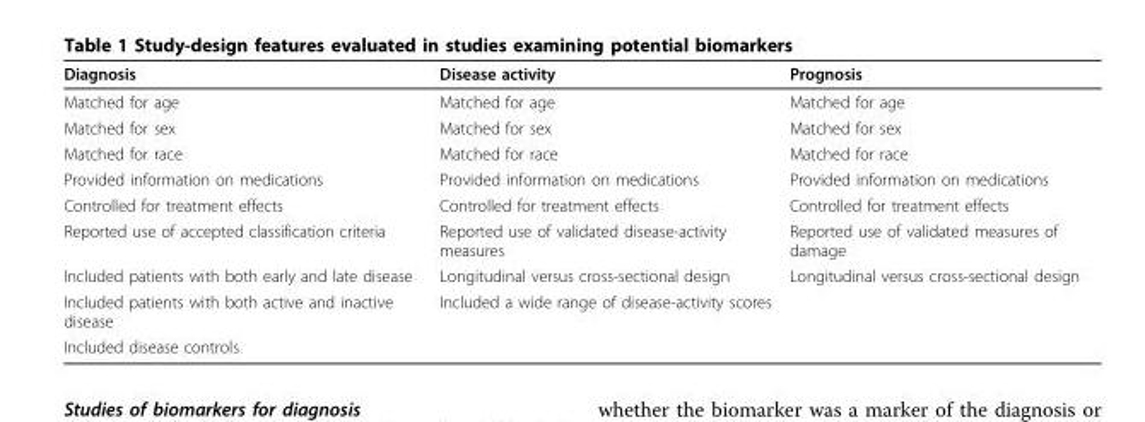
<table><thead><tr><td>Diagnosis</td><td>Disease activity</td><td>Prognosis</td></tr></thead><tbody><tr><td>Matched for age</td><td>Matched for age</td><td>Matched for age</td></tr><tr><td>Matched for sex</td><td>Matched for sex</td><td>Matched for sex</td></tr><tr><td>Matched for race</td><td>Matched for race</td><td>Matched for race</td></tr><tr><td>Provided information on medications</td><td>Provided information on medications</td><td>Provided information on medications</td></tr><tr><td>Controlled for treatment effects</td><td>Controlled for treatment effects</td><td>Controlled for treatment effects</td></tr><tr><td>Reported use of accepted classification criteria</td><td>Reported use of validated disease-activity measures</td><td>Reported use of validated measures of damage</td></tr><tr><td>Included patients with both early and late disease</td><td>Longitudinal versus cross-sectional design</td><td>Longitudinal versus cross-sectional design</td></tr><tr><td>Included patients with both active and inactive disease</td><td>Included a wide range of disease-activity scores</td><td></td></tr><tr><td>Included disease controls</td><td></td><td></td></tr></tbody></table>